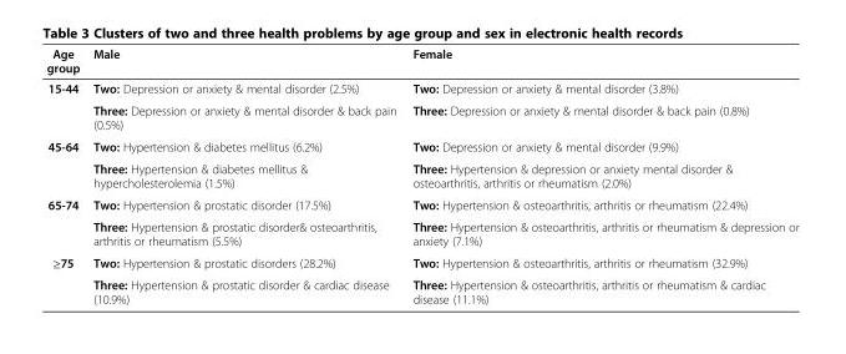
<table><thead><tr><td>Age group</td><td>Male</td><td>Female</td></tr></thead><tbody><tr><td rowspan="2">15-44</td><td>Two: Depression or anxiety &amp; mental disorder (2.5%)</td><td>Two: Depression or anxiety &amp; mental disorder (3.8%)</td></tr><tr><td>Three: Depression or anxiety &amp; mental disorder &amp; back pain (0.5%)</td><td>Three: Depression or anxiety &amp; mental disorder &amp; back pain (0.8%)</td></tr><tr><td rowspan="2">45-64</td><td>Two: Hypertension &amp; diabetes mellitus (6.2%)</td><td>Two: Depression or anxiety &amp; mental disorder (9.9%)</td></tr><tr><td>Three: Hypertension &amp; diabetes mellitus &amp; hypercholesterolemia (1.5%)</td><td>Three: Hypertension &amp; depression or anxiety mental disorder &amp; osteoarthritis, arthritis or rheumatism (2.0%)</td></tr><tr><td rowspan="2">65-74</td><td>Two: Hypertension &amp; prostatic disorder (17.5%)</td><td>Two: Hypertension &amp; osteoarthritis, arthritis or rheumatism (22.4%)</td></tr><tr><td>Three: Hypertension &amp; prostatic disorder&amp; osteoarthritis, arthritis or rheumatism (5.5%)</td><td>Three: Hypertension &amp; osteoarthritis, arthritis or rheumatism &amp; depression or anxiety (7.1%)</td></tr><tr><td rowspan="2">≥75</td><td>Two: Hypertension &amp; prostatic disorders (28.2%)</td><td>Two: Hypertension &amp; osteoarthritis, arthritis or rheumatism (32.9%)</td></tr><tr><td>Three: Hypertension &amp; prostatic disorder &amp; cardiac disease (10.9%)</td><td>Three: Hypertension &amp; osteoarthritis, arthritis or rheumatism &amp; cardiac disease (11.1%)</td></tr></tbody></table>